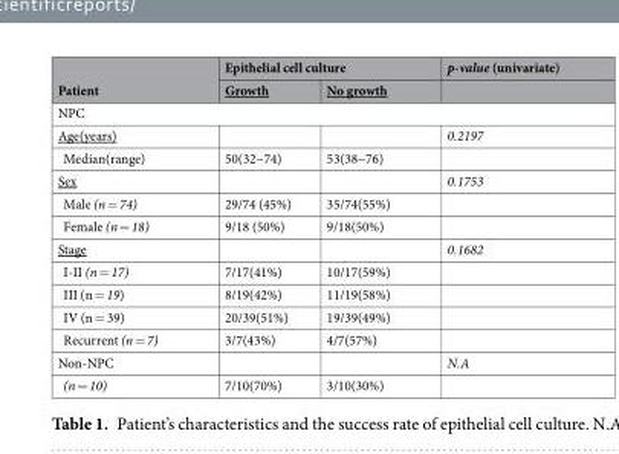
<table><thead><tr><td rowspan="2">Patient</td><td colspan="2">Epithelial cell culture</td><td rowspan="2">p-value (univariate)</td></tr><tr><td>Growth</td><td>No growth</td></tr></thead><tbody><tr><td colspan="4">NPC</td></tr><tr><td>Age(years)</td><td></td><td></td><td>0.2197</td></tr><tr><td>Median(range)</td><td>50(32~74)</td><td>53(38~76)</td><td></td></tr><tr><td>Sex</td><td></td><td></td><td>0.1753</td></tr><tr><td>Male (n = 74)</td><td>29/74 (45%)</td><td>35/74(55%)</td><td></td></tr><tr><td>Female (n = 18)</td><td>9/18 (50%)</td><td>9/18(50%)</td><td></td></tr><tr><td>Stage</td><td></td><td></td><td>0.1682</td></tr><tr><td>I-II (n = 17)</td><td>7/17(41%)</td><td>10/17(59%)</td><td></td></tr><tr><td>III (n = 19)</td><td>8/19(42%)</td><td>11/19(58%)</td><td></td></tr><tr><td>IV (n = 39)</td><td>20/39(51%)</td><td>19/39(49%)</td><td></td></tr><tr><td>Recurrent (n = 7)</td><td>3/7(43%)</td><td>4/7(57%)</td><td></td></tr><tr><td>Non-NPC</td><td></td><td></td><td>N.A</td></tr><tr><td>(n = 10)</td><td>7/10(70%)</td><td>3/10(30%)</td><td></td></tr></tbody></table>